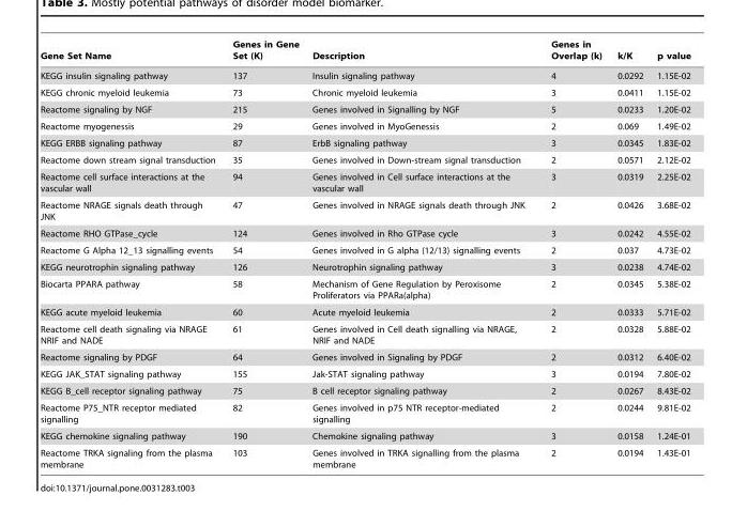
<table><thead><tr><td>Gene Set Name</td><td>Genes in Gene Set (K)</td><td>Description</td><td>Genes in Overlap (k)</td><td>k/K</td><td>p value</td></tr></thead><tbody><tr><td>KEGG insulin signaling pathway</td><td>137</td><td>Insulin signaling pathway</td><td>4</td><td>0.0292</td><td>1.15E-02</td></tr><tr><td>KEGG chronic myeloid leukemia</td><td>73</td><td>Chronic myeloid leukemia</td><td>3</td><td>0.0411</td><td>1.15E-02</td></tr><tr><td>Reactome signaling by NGF</td><td>215</td><td>Genes involved in Signalling by NGF</td><td>5</td><td>0.0233</td><td>1.20E-02</td></tr><tr><td>Reactome myogenessis</td><td>29</td><td>Genes involved in MyoGenessis</td><td>2</td><td>0.069</td><td>1.49E-02</td></tr><tr><td>KEGG ERBB signaling pathway</td><td>87</td><td>ErbB signaling pathway</td><td>3</td><td>0.0345</td><td>1.83E-02</td></tr><tr><td>Reactome down stream signal transduction</td><td>35</td><td>Genes involved in Down-stream signal transduction</td><td>2</td><td>0.0571</td><td>2.12E-02</td></tr><tr><td>Reactome cell surface interactions at the vascular wall</td><td>94</td><td>Genes involved in Cell surface interactions at the vascular wall</td><td>3</td><td>0.0319</td><td>2.25E-02</td></tr><tr><td>Reactome NRAGE signals death through JNK</td><td>47</td><td>Genes involved in NRAGE signals death through JNK</td><td>2</td><td>0.0426</td><td>3.68E-02</td></tr><tr><td>Reactome RHO GTPase_cycle</td><td>124</td><td>Genes involved in Rho GTPase cycle</td><td>3</td><td>0.0242</td><td>4.55E-02</td></tr><tr><td>Reactome G Alpha 12_13 signalling events</td><td>54</td><td>Genes involved in G alpha (12/13) signalling events</td><td>2</td><td>0.037</td><td>4.73E-02</td></tr><tr><td>KEGG neurotrophin signaling pathway</td><td>126</td><td>Neurotrophin signaling pathway</td><td>3</td><td>0.0238</td><td>4.74E-02</td></tr><tr><td>Biocarta PPARA pathway</td><td>58</td><td>Mechanism of Gene Regulation by Peroxisome Proliferators via PPARa(alpha)</td><td>2</td><td>0.0345</td><td>5.38E-02</td></tr><tr><td>KEGG acute myeloid leukemia</td><td>60</td><td>Acute myeloid leukemia</td><td>2</td><td>0.0333</td><td>5.71E-02</td></tr><tr><td>Reactome cell death signaling via NRAGE NRIF and NADE</td><td>61</td><td>Genes involved in Cell death signalling via NRAGE, NRIF and NADE</td><td>2</td><td>0.0328</td><td>5.88E-02</td></tr><tr><td>Reactome signaling by PDGF</td><td>64</td><td>Genes involved in Signaling by PDGF</td><td>2</td><td>0.0312</td><td>6.40E-02</td></tr><tr><td>KEGG JAK_STAT signaling pathway</td><td>155</td><td>Jak-STAT signaling pathway</td><td>3</td><td>0.0194</td><td>7.80E-02</td></tr><tr><td>KEGG B_cell receptor signaling pathway</td><td>75</td><td>B cell receptor signaling pathway</td><td>2</td><td>0.0267</td><td>8.43E-02</td></tr><tr><td>Reactome P75_NTR receptor mediated signalling</td><td>82</td><td>Genes involved in p75 NTR receptor-mediated signalling</td><td>2</td><td>0.0244</td><td>9.81E-02</td></tr><tr><td>KEGG chemokine signaling pathway</td><td>190</td><td>Chemokine signaling pathway</td><td>3</td><td>0.0158</td><td>1.24E-01</td></tr><tr><td>Reactome TRKA signaling from the plasma membrane</td><td>103</td><td>Genes involved in TRKA signalling from the plasma membrane</td><td>2</td><td>0.0194</td><td>1.43E-01</td></tr></tbody></table>